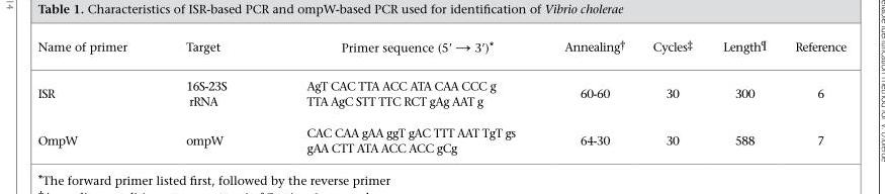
<table><thead><tr><td>Name of primer</td><td>Target</td><td>Primer sequence (5’ → 3’)*</td><td>Annealing†</td><td>Cycles‡</td><td>Length¶</td><td>Reference</td></tr></thead><tbody><tr><td rowspan="2">ISR</td><td>16S-23S</td><td>AgT CAC TTA ACC ATA CAA CCC g</td><td rowspan="2">60-60</td><td rowspan="2">30</td><td rowspan="2">300</td><td rowspan="2">6</td></tr><tr><td>rRNA</td><td>TTA AgC STT TTC RCT gAg AAT g</td></tr><tr><td rowspan="2">OmpW</td><td rowspan="2">ompW</td><td>CAC CAA gAA ggT gAC TTT AAT TgT gs</td><td rowspan="2">64-30</td><td rowspan="2">30</td><td rowspan="2">588</td><td rowspan="2">7</td></tr><tr><td>gAA CTT ATA ACC ACC gCg</td></tr></tbody></table>